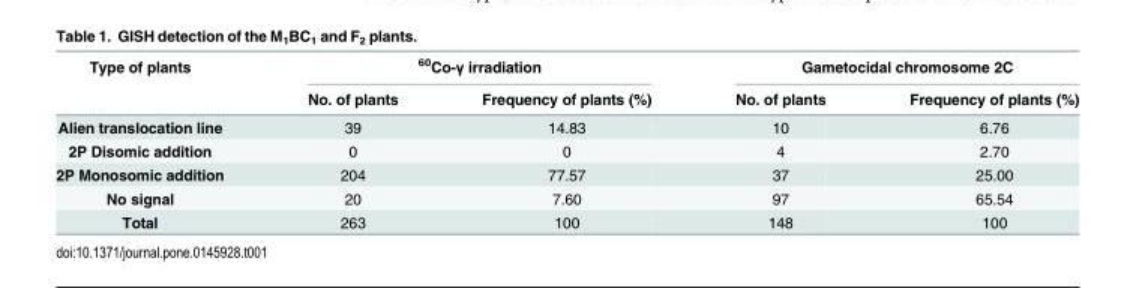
<table><thead><tr><td rowspan="2">Type of plants</td><td colspan="2"><sup>60</sup>Co-γ irradiation</td><td colspan="2">Gametocidal chromosome 2C</td></tr><tr><td>No. of plants</td><td>Frequency of plants (%)</td><td>No. of plants</td><td>Frequency of plants (%)</td></tr></thead><tbody><tr><td>Alien translocation line</td><td>39</td><td>14.83</td><td>10</td><td>6.76</td></tr><tr><td>2P Disomic addition</td><td>0</td><td>0</td><td>4</td><td>2.70</td></tr><tr><td>2P Monosomic addition</td><td>204</td><td>77.57</td><td>37</td><td>25.00</td></tr><tr><td>No signal</td><td>20</td><td>7.60</td><td>97</td><td>65.54</td></tr><tr><td>Total</td><td>263</td><td>100</td><td>148</td><td>100</td></tr></tbody></table>